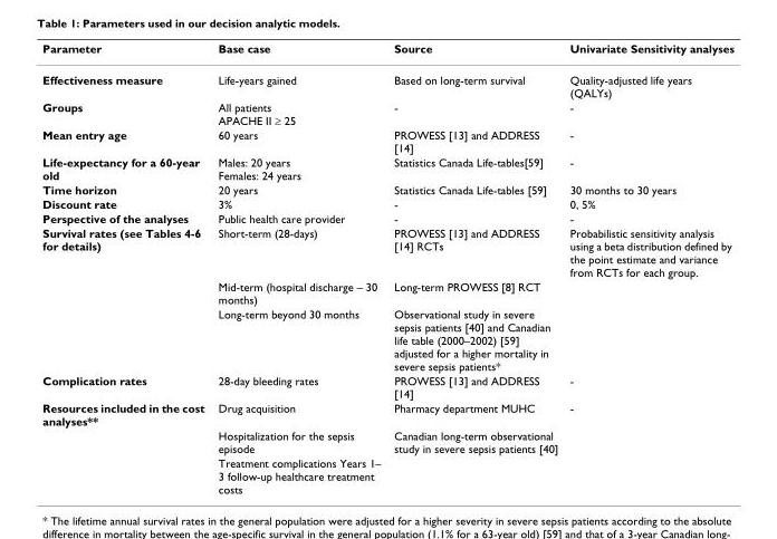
<table><thead><tr><td>Parameter</td><td>Base case</td><td>Source</td><td>Univariate Sensitivity analyses</td></tr></thead><tbody><tr><td>Effectiveness measure</td><td>Life-years gained</td><td>Based on long-term survival</td><td>Quality-adjusted life years (QALYs)</td></tr><tr><td>Groups</td><td>All patients APACHE II ≥ 25</td><td>-</td><td>-</td></tr><tr><td>Mean entry age</td><td>60 years</td><td>PROWESS [13] and ADDRESS [14]</td><td>-</td></tr><tr><td>Life-expectancy for a 60-year old</td><td>Males: 20 years Females: 24 years</td><td>Statistics Canada Life-tables[59]</td><td>-</td></tr><tr><td>Time horizon</td><td>20 years</td><td>Statistics Canada Life-tables [59]</td><td>30 months to 30 years</td></tr><tr><td>Discount rate</td><td>3%</td><td>-</td><td>0, 5%</td></tr><tr><td>Perspective of the analyses</td><td>Public health care provider</td><td>-</td><td>-</td></tr><tr><td rowspan="3">Survival rates (see Tables 4-6 for details)</td><td>Short-term (28-days)</td><td>PROWESS [13] and ADDRESS [14] RCTs</td><td>Probabilistic sensitivity analysis using a beta distribution defined by the point estimate and variance from RCTs for each group.</td></tr><tr><td>Mid-term (hospital discharge – 30 months)</td><td>Long-term PROWESS [8] RCT</td><td></td></tr><tr><td>Long-term beyond 30 months</td><td>Observational study in severe sepsis patients [40] and Canadian life table (2000–2002) [59] adjusted for a higher mortality in severe sepsis patients*</td><td></td></tr><tr><td>Complication rates</td><td>28-day bleeding rates</td><td>PROWESS [13] and ADDRESS [14]</td><td>-</td></tr><tr><td rowspan="3">Resources included in the cost analyses**</td><td>Drug acquisition</td><td>Pharmacy department MUHC</td><td>-</td></tr><tr><td>Hospitalization for the sepsis episode</td><td>Canadian long-term observational study in severe sepsis patients [40]</td><td></td></tr><tr><td>Treatment complications Years 1– 3 follow-up healthcare treatment costs</td><td></td><td></td></tr></tbody></table>